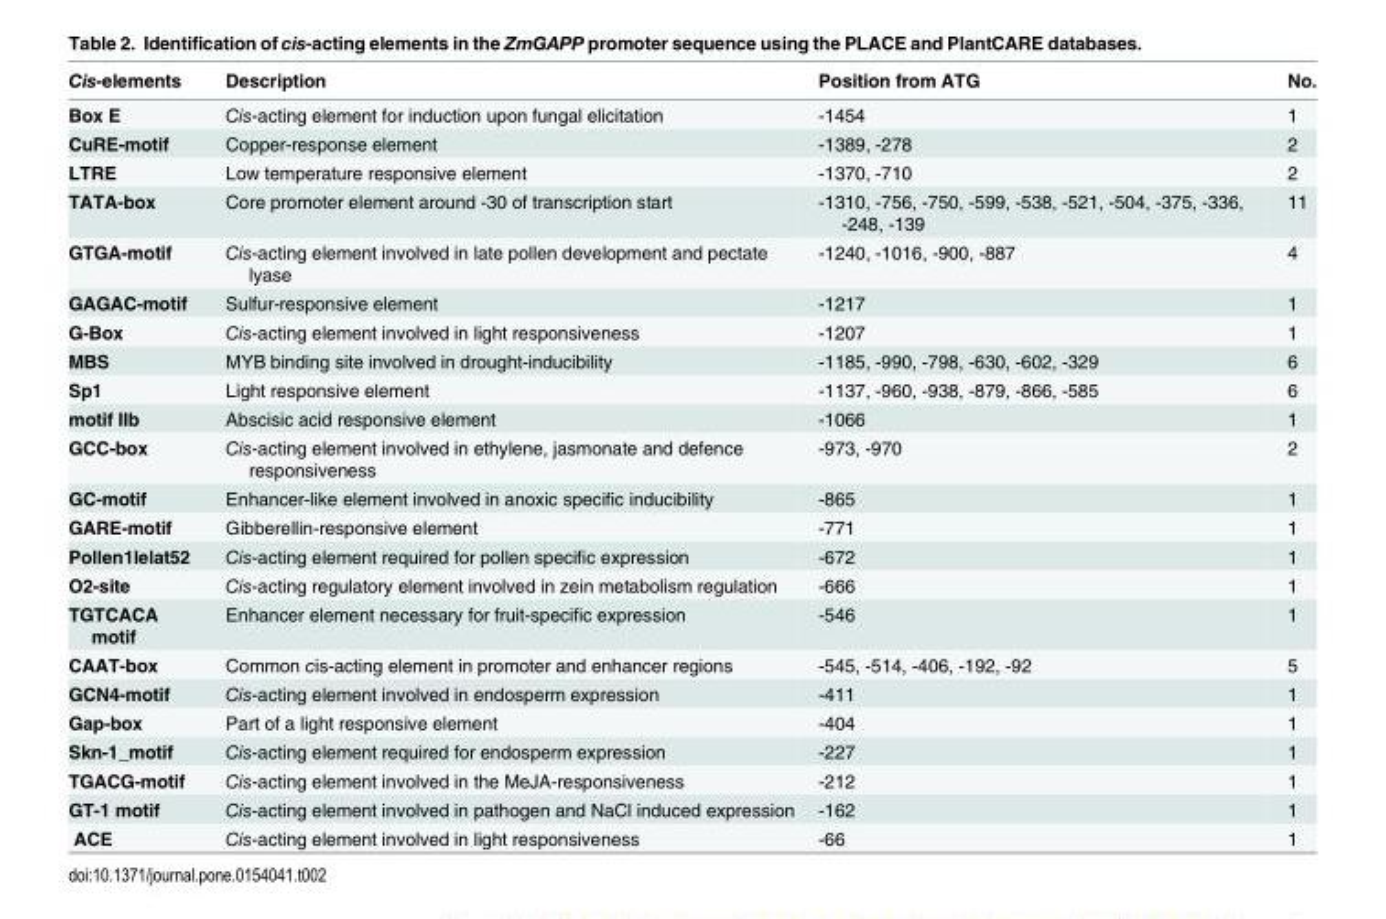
<table><thead><tr><td>Cis-elements</td><td>Description</td><td>Position from ATG</td><td>No.</td></tr></thead><tbody><tr><td>Box E</td><td>Cis-acting element for induction upon fungal elicitation</td><td>-1454</td><td>1</td></tr><tr><td>CuRE-motif</td><td>Copper-response element</td><td>-1389, -278</td><td>2</td></tr><tr><td>LTRE</td><td>Low temperature responsive element</td><td>-1370, -710</td><td>2</td></tr><tr><td>TATA-box</td><td>Core promoter element around -30 of transcription start</td><td>-1310, -756, -750, -599, -538, -521, -504, -375, -336, -248, -139</td><td>11</td></tr><tr><td>GTGA-motif</td><td>Cis-acting element involved in late pollen development and pectate lyase</td><td>-1240, -1016, -900, -887</td><td>4</td></tr><tr><td>GAGAC-motif</td><td>Sulfur-responsive element</td><td>-1217</td><td>1</td></tr><tr><td>G-Box</td><td>Cis-acting element involved in light responsiveness</td><td>-1207</td><td>1</td></tr><tr><td>MBS</td><td>MYB binding site involved in drought-inducibility</td><td>-1185, -990, -798, -630, -602, -329</td><td>6</td></tr><tr><td>Sp1</td><td>Light responsive element</td><td>-1137, -960, -938, -879, -866, -585</td><td>6</td></tr><tr><td>motif IIb</td><td>Abscisic acid responsive element</td><td>-1066</td><td>1</td></tr><tr><td>GCC-box</td><td>Cis-acting element involved in ethylene, jasmonate and defence responsiveness</td><td>-973, -970</td><td>2</td></tr><tr><td>GC-motif</td><td>Enhancer-like element involved in anoxic specific inducibility</td><td>-865</td><td>1</td></tr><tr><td>GARE-motif</td><td>Gibberellin-responsive element</td><td>-771</td><td>1</td></tr><tr><td>Pollen1lelat52</td><td>Cis-acting element required for pollen specific expression</td><td>-672</td><td>1</td></tr><tr><td>O2-site</td><td>Cis-acting regulatory element involved in zein metabolism regulation</td><td>-666</td><td>1</td></tr><tr><td>TGTCACA motif</td><td>Enhancer element necessary for fruit-specific expression</td><td>-546</td><td>1</td></tr><tr><td>CAAT-box</td><td>Common cis-acting element in promoter and enhancer regions</td><td>-545, -514, -406, -192, -92</td><td>5</td></tr><tr><td>GCN4-motif</td><td>Cis-acting element involved in endosperm expression</td><td>-411</td><td>1</td></tr><tr><td>Gap-box</td><td>Part of a light responsive element</td><td>-404</td><td>1</td></tr><tr><td>Skn-1_motif</td><td>Cis-acting element required for endosperm expression</td><td>-227</td><td>1</td></tr><tr><td>TGACG-motif</td><td>Cis-acting element involved in the MeJA-responsiveness</td><td>-212</td><td>1</td></tr><tr><td>GT-1 motif</td><td>Cis-acting element involved in pathogen and NaCl induced expression</td><td>-162</td><td>1</td></tr><tr><td>ACE</td><td>Cis-acting element involved in light responsiveness</td><td>-66</td><td>1</td></tr></tbody></table>